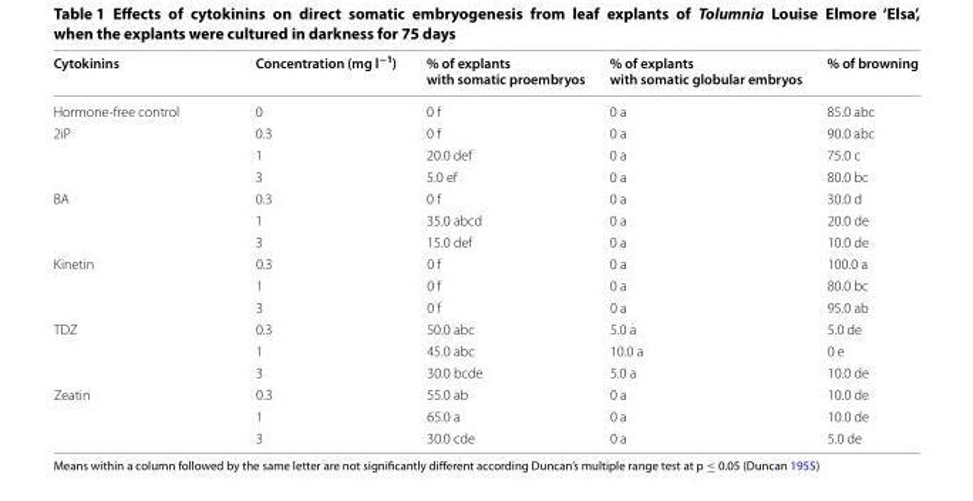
<table><thead><tr><td>Cytokinins</td><td>Concentration (mg l<sup>−1</sup>)</td><td>% of explants with somatic proembryos</td><td>% of explants with somatic globular embryos</td><td>% of browning</td></tr></thead><tbody><tr><td>Hormone‑free control</td><td>0</td><td>0 f</td><td>0 a</td><td>85.0 abc</td></tr><tr><td rowspan="3">2iP</td><td>0.3</td><td>0 f</td><td>0 a</td><td>90.0 abc</td></tr><tr><td>1</td><td>20.0 def</td><td>0 a</td><td>75.0 c</td></tr><tr><td>3</td><td>5.0 ef</td><td>0 a</td><td>80.0 bc</td></tr><tr><td rowspan="3">BA</td><td>0.3</td><td>0 f</td><td>0 a</td><td>30.0 d</td></tr><tr><td>1</td><td>35.0 abcd</td><td>0 a</td><td>20.0 de</td></tr><tr><td>3</td><td>15.0 def</td><td>0 a</td><td>10.0 de</td></tr><tr><td rowspan="3">Kinetin</td><td>0.3</td><td>0 f</td><td>0 a</td><td>100.0 a</td></tr><tr><td>1</td><td>0 f</td><td>0 a</td><td>80.0 bc</td></tr><tr><td>3</td><td>0 f</td><td>0 a</td><td>95.0 ab</td></tr><tr><td rowspan="3">TDZ</td><td>0.3</td><td>50.0 abc</td><td>5.0 a</td><td>5.0 de</td></tr><tr><td>1</td><td>45.0 abc</td><td>10.0 a</td><td>0 e</td></tr><tr><td>3</td><td>30.0 bcde</td><td>5.0 a</td><td>10.0 de</td></tr><tr><td rowspan="3">Zeatin</td><td>0.3</td><td>55.0 ab</td><td>0 a</td><td>10.0 de</td></tr><tr><td>1</td><td>65.0 a</td><td>0 a</td><td>10.0 de</td></tr><tr><td>3</td><td>30.0 cde</td><td>0 a</td><td>5.0 de</td></tr></tbody></table>